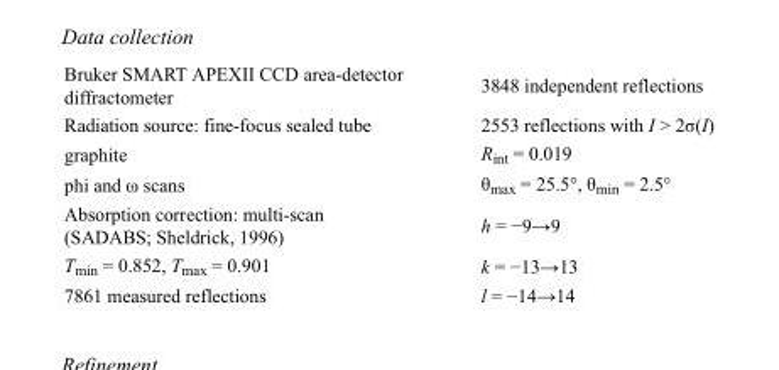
<table><tbody><tr><td>Bruker SMART APEXII CCD area-detector diffractometer</td><td>3848 independent reflections</td></tr><tr><td>Radiation source: fine-focus sealed tube</td><td>2553 reflections with I &gt; 2σ(I)</td></tr><tr><td>graphite</td><td>R<sub>int</sub> = 0.019</td></tr><tr><td>phi and ω scans</td><td>θ<sub>max</sub> = 25.5°, θ<sub>min</sub> = 2.5°</td></tr><tr><td>Absorption correction: multi-scan (SADABS; Sheldrick, 1996)</td><td>h = −9→9</td></tr><tr><td>T<sub>min</sub> = 0.852, T<sub>max</sub> = 0.901</td><td>k = −13→13</td></tr><tr><td>7861 measured reflections</td><td>l = −14→14</td></tr></tbody></table>